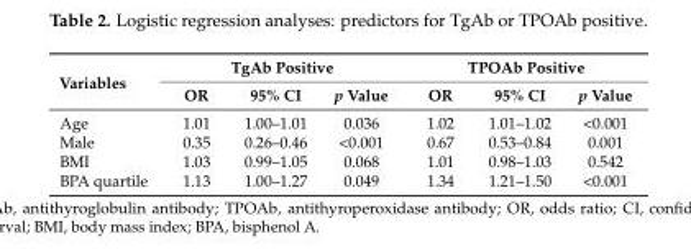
<table><thead><tr><td rowspan="2">Variables</td><td colspan="3">TgAb Positive</td><td colspan="3">TPOAb Positive</td></tr><tr><td>OR</td><td>95% CI</td><td>p Value</td><td>OR</td><td>95% CI</td><td>p Value</td></tr></thead><tbody><tr><td>Age</td><td>1.01</td><td>1.00–1.01</td><td>0.036</td><td>1.02</td><td>1.01–1.02</td><td>&lt;0.001</td></tr><tr><td>Male</td><td>0.35</td><td>0.26–0.46</td><td>&lt;0.001</td><td>0.67</td><td>0.53–0.84</td><td>0.001</td></tr><tr><td>BMI</td><td>1.03</td><td>0.99–1.05</td><td>0.068</td><td>1.01</td><td>0.98–1.03</td><td>0.542</td></tr><tr><td>BPA quartile</td><td>1.13</td><td>1.00–1.27</td><td>0.049</td><td>1.34</td><td>1.21–1.50</td><td>&lt;0.001</td></tr></tbody></table>